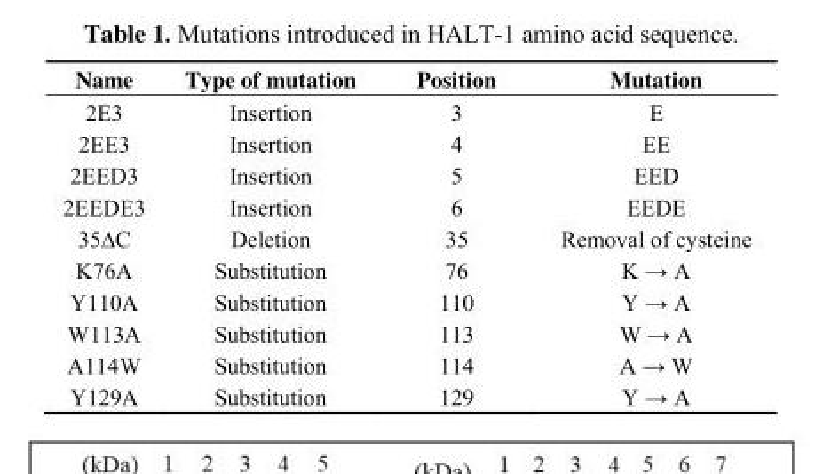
<table><thead><tr><td>Name</td><td>Type of mutation</td><td>Position</td><td>Mutation</td></tr></thead><tbody><tr><td>2E3</td><td>Insertion</td><td>3</td><td>E</td></tr><tr><td>2EE3</td><td>Insertion</td><td>4</td><td>EE</td></tr><tr><td>2EED3</td><td>Insertion</td><td>5</td><td>EED</td></tr><tr><td>2EEDE3</td><td>Insertion</td><td>6</td><td>EEDE</td></tr><tr><td>35∆C</td><td>Deletion</td><td>35</td><td>Removal of cysteine</td></tr><tr><td>K76A</td><td>Substitution</td><td>76</td><td>K → A</td></tr><tr><td>Y110A</td><td>Substitution</td><td>110</td><td>Y → A</td></tr><tr><td>W113A</td><td>Substitution</td><td>113</td><td>W → A</td></tr><tr><td>A114W</td><td>Substitution</td><td>114</td><td>A → W</td></tr><tr><td>Y129A</td><td>Substitution</td><td>129</td><td>Y → A</td></tr></tbody></table>